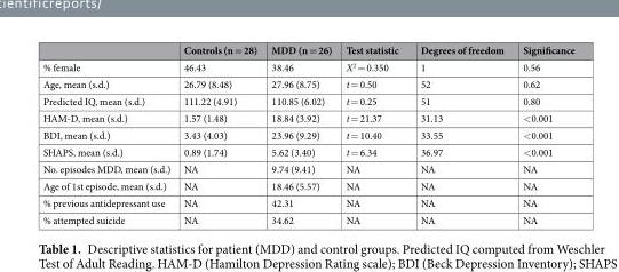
<table><thead><tr><td></td><td>Controls (n = 28)</td><td>MDD (n = 26)</td><td>Test statistic</td><td>Degrees of freedom</td><td>Significance</td></tr></thead><tbody><tr><td>% female</td><td>46.43</td><td>38.46</td><td>X<sup>2</sup> = 0.350</td><td>1</td><td>0.56</td></tr><tr><td>Age, mean (s.d.)</td><td>26.79 (8.48)</td><td>27.96 (8.75)</td><td>t = 0.50</td><td>52</td><td>0.62</td></tr><tr><td>Predicted IQ, mean (s.d.)</td><td>111.22 (4.91)</td><td>110.85 (6.02)</td><td>t = 0.25</td><td>51</td><td>0.80</td></tr><tr><td>HAM-D, mean (s.d.)</td><td>1.57 (1.48)</td><td>18.84 (3.92)</td><td>t = 21.37</td><td>31.13</td><td>&lt;0.001</td></tr><tr><td>BDI, mean (s.d.)</td><td>3.43 (4.03)</td><td>23.96 (9.29)</td><td>t = 10.40</td><td>33.55</td><td>&lt;0.001</td></tr><tr><td>SHAPS, mean (s.d.)</td><td>0.89 (1.74)</td><td>5.62 (3.40)</td><td>t = 6.34</td><td>36.97</td><td>&lt;0.001</td></tr><tr><td>No. episodes MDD, mean (s.d.)</td><td>NA</td><td>9.74 (9.41)</td><td>NA</td><td>NA</td><td>NA</td></tr><tr><td>Age of 1st episode, mean (s.d.)</td><td>NA</td><td>18.46 (5.57)</td><td>NA</td><td>NA</td><td>NA</td></tr><tr><td>% previous antidepressant use</td><td>NA</td><td>42.31</td><td>NA</td><td>NA</td><td>NA</td></tr><tr><td>% attempted suicide</td><td>NA</td><td>34.62</td><td>NA</td><td>NA</td><td>NA</td></tr></tbody></table>